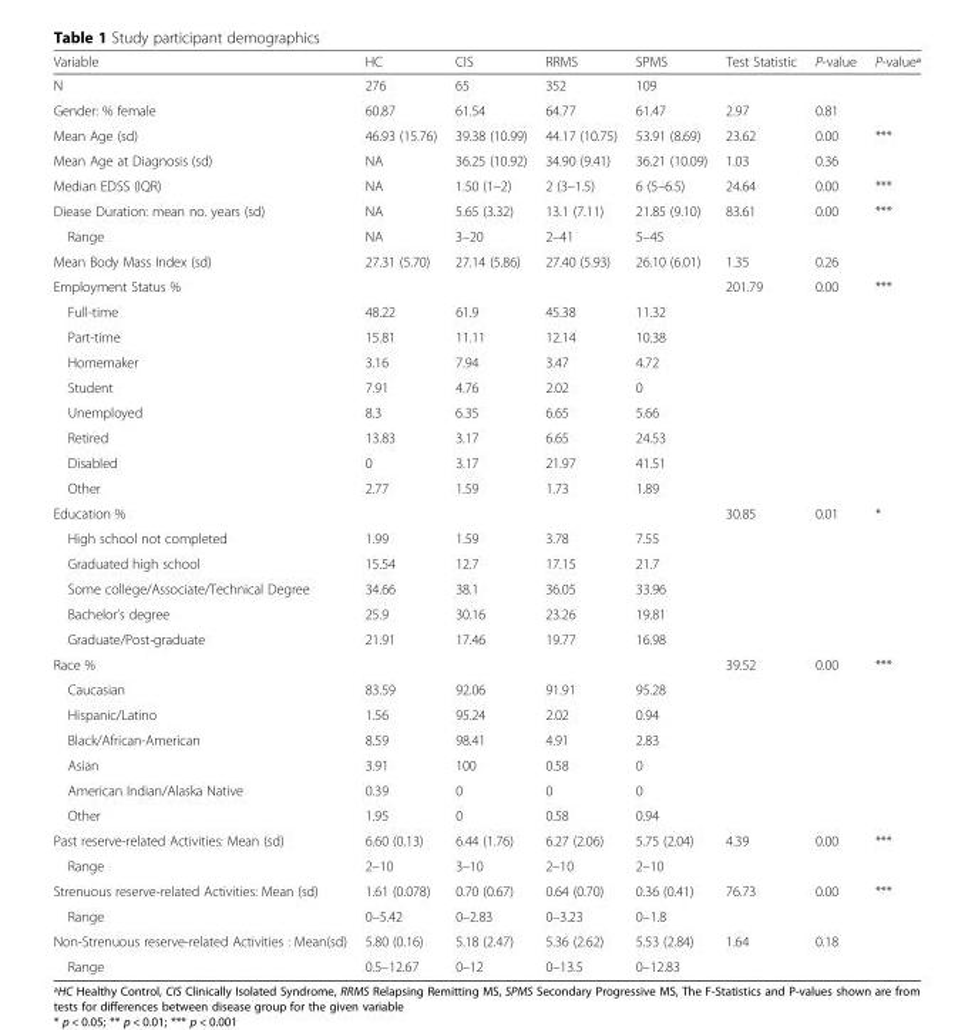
<table><thead><tr><td>Variable</td><td>HC</td><td>CIS</td><td>RRMS</td><td>SPMS</td><td>Test Statistic</td><td>P-value</td><td>P-valueª</td></tr></thead><tbody><tr><td>N</td><td>276</td><td>65</td><td>352</td><td>109</td><td></td><td></td><td></td></tr><tr><td>Gender: % female</td><td>60.87</td><td>61.54</td><td>64.77</td><td>61.47</td><td>2.97</td><td>0.81</td><td></td></tr><tr><td>Mean Age (sd)</td><td>46.93 (15.76)</td><td>39.38 (10.99)</td><td>44.17 (10.75)</td><td>53.91 (8.69)</td><td>23.62</td><td>0.00</td><td>***</td></tr><tr><td>Mean Age at Diagnosis (sd)</td><td>NA</td><td>36.25 (10.92)</td><td>34.90 (9.41)</td><td>36.21 (10.09)</td><td>1.03</td><td>0.36</td><td></td></tr><tr><td>Median EDSS (IQR)</td><td>NA</td><td>1.50 (1–2)</td><td>2 (3–1.5)</td><td>6 (5–6.5)</td><td>24.64</td><td>0.00</td><td>***</td></tr><tr><td>Diease Duration: mean no. years (sd)</td><td>NA</td><td>5.65 (3.32)</td><td>13.1 (7.11)</td><td>21.85 (9.10)</td><td>83.61</td><td>0.00</td><td>***</td></tr><tr><td>Range</td><td>NA</td><td>3–20</td><td>2–41</td><td>5–45</td><td></td><td></td><td></td></tr><tr><td>Mean Body Mass Index (sd)</td><td>27.31 (5.70)</td><td>27.14 (5.86)</td><td>27.40 (5.93)</td><td>26.10 (6.01)</td><td>1.35</td><td>0.26</td><td></td></tr><tr><td>Employment Status %</td><td></td><td></td><td></td><td></td><td>201.79</td><td>0.00</td><td>***</td></tr><tr><td>Full-time</td><td>48.22</td><td>61.9</td><td>45.38</td><td>11.32</td><td></td><td></td><td></td></tr><tr><td>Part-time</td><td>15.81</td><td>11.11</td><td>12.14</td><td>10.38</td><td></td><td></td><td></td></tr><tr><td>Homemaker</td><td>3.16</td><td>7.94</td><td>3.47</td><td>4.72</td><td></td><td></td><td></td></tr><tr><td>Student</td><td>7.91</td><td>4.76</td><td>2.02</td><td>0</td><td></td><td></td><td></td></tr><tr><td>Unemployed</td><td>8.3</td><td>6.35</td><td>6.65</td><td>5.66</td><td></td><td></td><td></td></tr><tr><td>Retired</td><td>13.83</td><td>3.17</td><td>6.65</td><td>24.53</td><td></td><td></td><td></td></tr><tr><td>Disabled</td><td>0</td><td>3.17</td><td>21.97</td><td>41.51</td><td></td><td></td><td></td></tr><tr><td>Other</td><td>2.77</td><td>1.59</td><td>1.73</td><td>1.89</td><td></td><td></td><td></td></tr><tr><td>Education %</td><td></td><td></td><td></td><td></td><td>30.85</td><td>0.01</td><td>*</td></tr><tr><td>High school not completed</td><td>1.99</td><td>1.59</td><td>3.78</td><td>7.55</td><td></td><td></td><td></td></tr><tr><td>Graduated high school</td><td>15.54</td><td>12.7</td><td>17.15</td><td>21.7</td><td></td><td></td><td></td></tr><tr><td>Some college/Associate/Technical Degree</td><td>34.66</td><td>38.1</td><td>36.05</td><td>33.96</td><td></td><td></td><td></td></tr><tr><td>Bachelor’s degree</td><td>25.9</td><td>30.16</td><td>23.26</td><td>19.81</td><td></td><td></td><td></td></tr><tr><td>Graduate/Post-graduate</td><td>21.91</td><td>17.46</td><td>19.77</td><td>16.98</td><td></td><td></td><td></td></tr><tr><td>Race %</td><td></td><td></td><td></td><td></td><td>39.52</td><td>0.00</td><td>***</td></tr><tr><td>Caucasian</td><td>83.59</td><td>92.06</td><td>91.91</td><td>95.28</td><td></td><td></td><td></td></tr><tr><td>Hispanic/Latino</td><td>1.56</td><td>95.24</td><td>2.02</td><td>0.94</td><td></td><td></td><td></td></tr><tr><td>Black/African-American</td><td>8.59</td><td>98.41</td><td>4.91</td><td>2.83</td><td></td><td></td><td></td></tr><tr><td>Asian</td><td>3.91</td><td>100</td><td>0.58</td><td>0</td><td></td><td></td><td></td></tr><tr><td>American Indian/Alaska Native</td><td>0.39</td><td>0</td><td>0</td><td>0</td><td></td><td></td><td></td></tr><tr><td>Other</td><td>1.95</td><td>0</td><td>0.58</td><td>0.94</td><td></td><td></td><td></td></tr><tr><td>Past reserve-related Activities: Mean (sd)</td><td>6.60 (0.13)</td><td>6.44 (1.76)</td><td>6.27 (2.06)</td><td>5.75 (2.04)</td><td>4.39</td><td>0.00</td><td>***</td></tr><tr><td>Range</td><td>2–10</td><td>3–10</td><td>2–10</td><td>2–10</td><td></td><td></td><td></td></tr><tr><td>Strenuous reserve-related Activities: Mean (sd)</td><td>1.61 (0.078)</td><td>0.70 (0.67)</td><td>0.64 (0.70)</td><td>0.36 (0.41)</td><td>76.73</td><td>0.00</td><td>***</td></tr><tr><td>Range</td><td>0–5.42</td><td>0–2.83</td><td>0–3.23</td><td>0–1.8</td><td></td><td></td><td></td></tr><tr><td>Non-Strenuous reserve-related Activities : Mean(sd)</td><td>5.80 (0.16)</td><td>5.18 (2.47)</td><td>5.36 (2.62)</td><td>5.53 (2.84)</td><td>1.64</td><td>0.18</td><td></td></tr><tr><td>Range</td><td>0.5–12.67</td><td>0–12</td><td>0–13.5</td><td>0–12.83</td><td></td><td></td><td></td></tr></tbody></table>